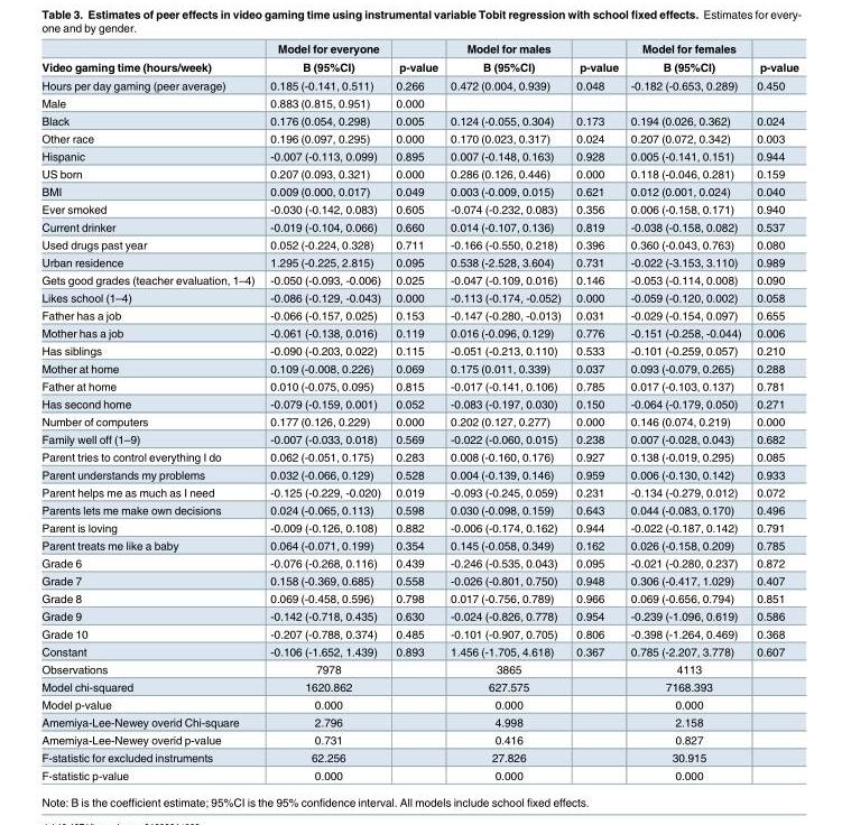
<table><thead><tr><td rowspan="2">Video gaming time (hours/week)</td><td rowspan="2">Model for everyone B (95%CI)</td><td rowspan="2">p-value</td><td rowspan="2">Model for males B (95%CI)</td><td rowspan="2">p-value</td><td rowspan="2">Model for females B (95%CI)</td><td rowspan="2">p-value</td></tr><tr></tr></thead><tbody><tr><td>Hours per day gaming (peer average)</td><td>0.185 (-0.141, 0.511)</td><td>0.266</td><td>0.472 (0.004, 0.939)</td><td>0.048</td><td>-0.182 (-0.653, 0.289)</td><td>0.450</td></tr><tr><td>Male</td><td>0.883 (0.815, 0.951)</td><td>0.000</td><td></td><td></td><td></td><td></td></tr><tr><td>Black</td><td>0.176 (0.054, 0.298)</td><td>0.005</td><td>0.124 (-0.055, 0.304)</td><td>0.173</td><td>0.194 (0.026, 0.362)</td><td>0.024</td></tr><tr><td>Other race</td><td>0.196 (0.097, 0.295)</td><td>0.000</td><td>0.170 (0.023, 0.317)</td><td>0.024</td><td>0.207 (0.072, 0.342)</td><td>0.003</td></tr><tr><td>Hispanic</td><td>-0.007 (-0.113, 0.099)</td><td>0.895</td><td>0.007 (-0.148, 0.163)</td><td>0.928</td><td>0.005 (-0.141, 0.151)</td><td>0.944</td></tr><tr><td>US born</td><td>0.207 (0.093, 0.321)</td><td>0.000</td><td>0.286 (0.126, 0.446)</td><td>0.000</td><td>0.118 (-0.046, 0.281)</td><td>0.159</td></tr><tr><td>BMI</td><td>0.009 (0.000, 0.017)</td><td>0.049</td><td>0.003 (-0.009, 0.015)</td><td>0.621</td><td>0.012 (0.001, 0.024)</td><td>0.040</td></tr><tr><td>Ever smoked</td><td>-0.030 (-0.142, 0.083)</td><td>0.605</td><td>-0.074 (-0.232, 0.083)</td><td>0.356</td><td>0.006 (-0.158, 0.171)</td><td>0.940</td></tr><tr><td>Current drinker</td><td>-0.019 (-0.104, 0.066)</td><td>0.660</td><td>0.014 (-0.107, 0.136)</td><td>0.819</td><td>-0.038 (-0.158, 0.082)</td><td>0.537</td></tr><tr><td>Used drugs past year</td><td>0.052 (-0.224, 0.328)</td><td>0.711</td><td>-0.166 (-0.550, 0.218)</td><td>0.396</td><td>0.360 (-0.043, 0.763)</td><td>0.080</td></tr><tr><td>Urban residence</td><td>1.295 (-0.225, 2.815)</td><td>0.095</td><td>0.538 (-2.528, 3.604)</td><td>0.731</td><td>-0.022 (-3.153, 3.110)</td><td>0.989</td></tr><tr><td>Gets good grades (teacher evaluation, 1–4)</td><td>-0.050 (-0.093, -0.006)</td><td>0.025</td><td>-0.047 (-0.109, 0.016)</td><td>0.146</td><td>-0.053 (-0.114, 0.008)</td><td>0.090</td></tr><tr><td>Likes school (1–4)</td><td>-0.086 (-0.129, -0.043)</td><td>0.000</td><td>-0.113 (-0.174, -0.052)</td><td>0.000</td><td>-0.059 (-0.120, 0.002)</td><td>0.058</td></tr><tr><td>Father has a job</td><td>-0.066 (-0.157, 0.025)</td><td>0.153</td><td>-0.147 (-0.280, -0.013)</td><td>0.031</td><td>-0.029 (-0.154, 0.097)</td><td>0.655</td></tr><tr><td>Mother has a job</td><td>-0.061 (-0.138, 0.016)</td><td>0.119</td><td>0.016 (-0.096, 0.129)</td><td>0.776</td><td>-0.151 (-0.258, -0.044)</td><td>0.006</td></tr><tr><td>Has siblings</td><td>-0.090 (-0.203, 0.022)</td><td>0.115</td><td>-0.051 (-0.213, 0.110)</td><td>0.533</td><td>-0.101 (-0.259, 0.057)</td><td>0.210</td></tr><tr><td>Mother at home</td><td>0.109 (-0.008, 0.226)</td><td>0.069</td><td>0.175 (0.011, 0.339)</td><td>0.037</td><td>0.093 (-0.079, 0.265)</td><td>0.288</td></tr><tr><td>Father at home</td><td>0.010 (-0.075, 0.095)</td><td>0.815</td><td>-0.017 (-0.141, 0.106)</td><td>0.785</td><td>0.017 (-0.103, 0.137)</td><td>0.781</td></tr><tr><td>Has second home</td><td>-0.079 (-0.159, 0.001)</td><td>0.052</td><td>-0.083 (-0.197, 0.030)</td><td>0.150</td><td>-0.064 (-0.179, 0.050)</td><td>0.271</td></tr><tr><td>Number of computers</td><td>0.177 (0.126, 0.229)</td><td>0.000</td><td>0.202 (0.127, 0.277)</td><td>0.000</td><td>0.146 (0.074, 0.219)</td><td>0.000</td></tr><tr><td>Family well off (1–9)</td><td>-0.007 (-0.033, 0.018)</td><td>0.569</td><td>-0.022 (-0.060, 0.015)</td><td>0.238</td><td>0.007 (-0.028, 0.043)</td><td>0.682</td></tr><tr><td>Parent tries to control everything I do</td><td>0.062 (-0.051, 0.175)</td><td>0.283</td><td>0.008 (-0.160, 0.176)</td><td>0.927</td><td>0.138 (-0.019, 0.295)</td><td>0.085</td></tr><tr><td>Parent understands my problems</td><td>0.032 (-0.066, 0.129)</td><td>0.528</td><td>0.004 (-0.139, 0.146)</td><td>0.959</td><td>0.006 (-0.130, 0.142)</td><td>0.933</td></tr><tr><td>Parent helps me as much as I need</td><td>-0.125 (-0.229, -0.020)</td><td>0.019</td><td>-0.093 (-0.245, 0.059)</td><td>0.231</td><td>-0.134 (-0.279, 0.012)</td><td>0.072</td></tr><tr><td>Parents lets me make own decisions</td><td>0.024 (-0.065, 0.113)</td><td>0.598</td><td>0.030 (-0.098, 0.159)</td><td>0.643</td><td>0.044 (-0.083, 0.170)</td><td>0.496</td></tr><tr><td>Parent is loving</td><td>-0.009 (-0.126, 0.108)</td><td>0.882</td><td>-0.006 (-0.174, 0.162)</td><td>0.944</td><td>-0.022 (-0.187, 0.142)</td><td>0.791</td></tr><tr><td>Parent treats me like a baby</td><td>0.064 (-0.071, 0.199)</td><td>0.354</td><td>0.145 (-0.058, 0.349)</td><td>0.162</td><td>0.026 (-0.158, 0.209)</td><td>0.785</td></tr><tr><td>Grade 6</td><td>-0.076 (-0.268, 0.116)</td><td>0.439</td><td>-0.246 (-0.535, 0.043)</td><td>0.095</td><td>-0.021 (-0.280, 0.237)</td><td>0.872</td></tr><tr><td>Grade 7</td><td>0.158 (-0.369, 0.685)</td><td>0.558</td><td>-0.026 (-0.801, 0.750)</td><td>0.948</td><td>0.306 (-0.417, 1.029)</td><td>0.407</td></tr><tr><td>Grade 8</td><td>0.069 (-0.458, 0.596)</td><td>0.798</td><td>0.017 (-0.756, 0.789)</td><td>0.966</td><td>0.069 (-0.656, 0.794)</td><td>0.851</td></tr><tr><td>Grade 9</td><td>-0.142 (-0.718, 0.435)</td><td>0.630</td><td>-0.024 (-0.826, 0.778)</td><td>0.954</td><td>-0.239 (-1.096, 0.619)</td><td>0.586</td></tr><tr><td>Grade 10</td><td>-0.207 (-0.788, 0.374)</td><td>0.485</td><td>-0.101 (-0.907, 0.705)</td><td>0.806</td><td>-0.398 (-1.264, 0.469)</td><td>0.368</td></tr><tr><td>Constant</td><td>-0.106 (-1.652, 1.439)</td><td>0.893</td><td>1.456 (-1.705, 4.618)</td><td>0.367</td><td>0.785 (-2.207, 3.778)</td><td>0.607</td></tr><tr><td>Observations</td><td>7978</td><td></td><td>3865</td><td></td><td>4113</td><td></td></tr><tr><td>Model chi-squared</td><td>1620.862</td><td></td><td>627.575</td><td></td><td>7168.393</td><td></td></tr><tr><td>Model p-value</td><td>0.000</td><td></td><td>0.000</td><td></td><td>0.000</td><td></td></tr><tr><td>Amemiya-Lee-Newey overid Chi-square</td><td>2.796</td><td></td><td>4.998</td><td></td><td>2.158</td><td></td></tr><tr><td>Amemiya-Lee-Newey overid p-value</td><td>0.731</td><td></td><td>0.416</td><td></td><td>0.827</td><td></td></tr><tr><td>F-statistic for excluded instruments</td><td>62.256</td><td></td><td>27.826</td><td></td><td>30.915</td><td></td></tr><tr><td>F-statistic p-value</td><td>0.000</td><td></td><td>0.000</td><td></td><td>0.000</td><td></td></tr></tbody></table>